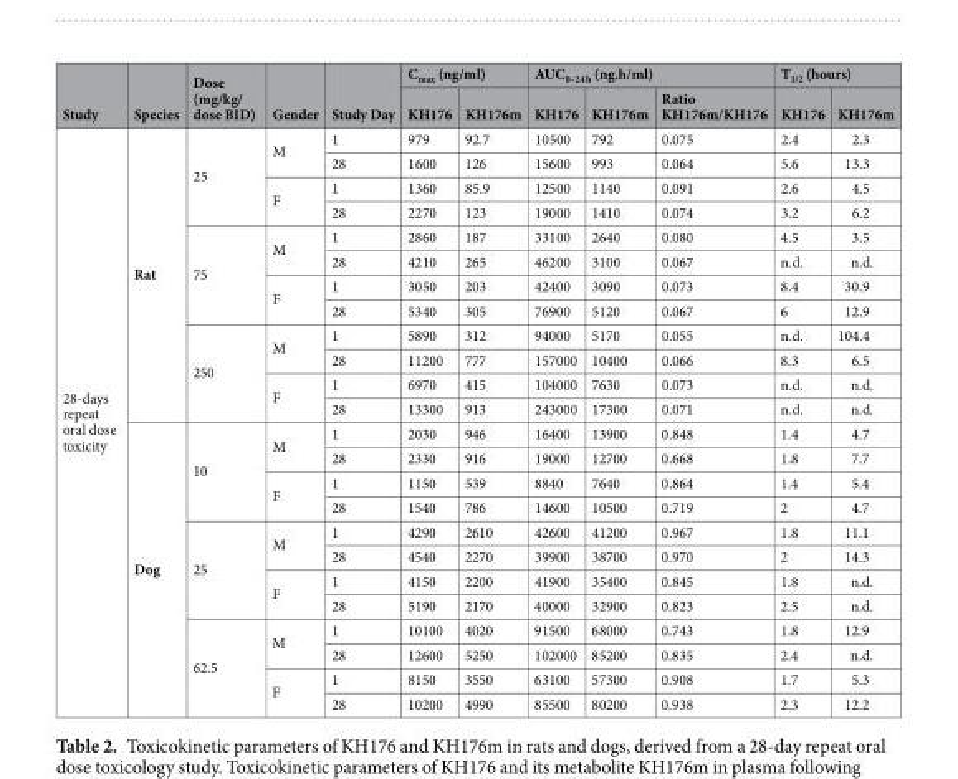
<table><thead><tr><td rowspan="2">Study</td><td rowspan="2">Species</td><td rowspan="2">Dose (mg/kg/ dose BID)</td><td rowspan="2">Gender</td><td rowspan="2">Study Day</td><td colspan="2">C<sub>max</sub> (ng/ml)</td><td colspan="3">AUC<sub>0–24 h</sub> (ng.h/ml)</td><td colspan="2">T<sub>1/2</sub> (hours)</td></tr><tr><td>KH176</td><td>KH176m</td><td>KH176</td><td>KH176m</td><td>Ratio KH176m/KH176</td><td>KH176</td><td>KH176m</td></tr></thead><tbody><tr><td rowspan="24">28-days repeat oral dose toxicity</td><td rowspan="12">Rat</td><td rowspan="4">25</td><td rowspan="2">M</td><td>1</td><td>979</td><td>92.7</td><td>10500</td><td>792</td><td>0.075</td><td>2.4</td><td>2.3</td></tr><tr><td>28</td><td>1600</td><td>126</td><td>15600</td><td>993</td><td>0.064</td><td>5.6</td><td>13.3</td></tr><tr><td rowspan="2">F</td><td>1</td><td>1360</td><td>85.9</td><td>12500</td><td>1140</td><td>0.091</td><td>2.6</td><td>4.5</td></tr><tr><td>28</td><td>2270</td><td>123</td><td>19000</td><td>1410</td><td>0.074</td><td>3.2</td><td>6.2</td></tr><tr><td rowspan="4">75</td><td rowspan="2">M</td><td>1</td><td>2860</td><td>187</td><td>33100</td><td>2640</td><td>0.080</td><td>4.5</td><td>3.5</td></tr><tr><td>28</td><td>4210</td><td>265</td><td>46200</td><td>3100</td><td>0.067</td><td>n.d.</td><td>n.d.</td></tr><tr><td rowspan="2">F</td><td>1</td><td>3050</td><td>203</td><td>42400</td><td>3090</td><td>0.073</td><td>8.4</td><td>30.9</td></tr><tr><td>28</td><td>5340</td><td>305</td><td>76900</td><td>5120</td><td>0.067</td><td>6</td><td>12.9</td></tr><tr><td rowspan="4">250</td><td rowspan="2">M</td><td>1</td><td>5890</td><td>312</td><td>94000</td><td>5170</td><td>0.055</td><td>n.d.</td><td>104.4</td></tr><tr><td>28</td><td>11200</td><td>777</td><td>157000</td><td>10400</td><td>0.066</td><td>8.3</td><td>6.5</td></tr><tr><td rowspan="2">F</td><td>1</td><td>6970</td><td>415</td><td>104000</td><td>7630</td><td>0.073</td><td>n.d.</td><td>n.d.</td></tr><tr><td>28</td><td>13300</td><td>913</td><td>243000</td><td>17300</td><td>0.071</td><td>n.d.</td><td>n.d.</td></tr><tr><td rowspan="12">Dog</td><td rowspan="4">10</td><td rowspan="2">M</td><td>1</td><td>2030</td><td>946</td><td>16400</td><td>13900</td><td>0.848</td><td>1.4</td><td>4.7</td></tr><tr><td>28</td><td>2330</td><td>916</td><td>19000</td><td>12700</td><td>0.668</td><td>1.8</td><td>7.7</td></tr><tr><td rowspan="2">F</td><td>1</td><td>1150</td><td>539</td><td>8840</td><td>7640</td><td>0.864</td><td>1.4</td><td>5.4</td></tr><tr><td>28</td><td>1540</td><td>786</td><td>14600</td><td>10500</td><td>0.719</td><td>2</td><td>4.7</td></tr><tr><td rowspan="4">25</td><td rowspan="2">M</td><td>1</td><td>4290</td><td>2610</td><td>42600</td><td>41200</td><td>0.967</td><td>1.8</td><td>11.1</td></tr><tr><td>28</td><td>4540</td><td>2270</td><td>39900</td><td>38700</td><td>0.970</td><td>2</td><td>14.3</td></tr><tr><td rowspan="2">F</td><td>1</td><td>4150</td><td>2200</td><td>41900</td><td>35400</td><td>0.845</td><td>1.8</td><td>n.d.</td></tr><tr><td>28</td><td>5190</td><td>2170</td><td>40000</td><td>32900</td><td>0.823</td><td>2.5</td><td>n.d.</td></tr><tr><td rowspan="4">62.5</td><td rowspan="2">M</td><td>1</td><td>10100</td><td>4020</td><td>91500</td><td>68000</td><td>0.743</td><td>1.8</td><td>12.9</td></tr><tr><td>28</td><td>12600</td><td>5250</td><td>102000</td><td>85200</td><td>0.835</td><td>2.4</td><td>n.d.</td></tr><tr><td rowspan="2">F</td><td>1</td><td>8150</td><td>3550</td><td>63100</td><td>57300</td><td>0.908</td><td>1.7</td><td>5.3</td></tr><tr><td>28</td><td>10200</td><td>4990</td><td>85500</td><td>80200</td><td>0.938</td><td>2.3</td><td>12.2</td></tr></tbody></table>